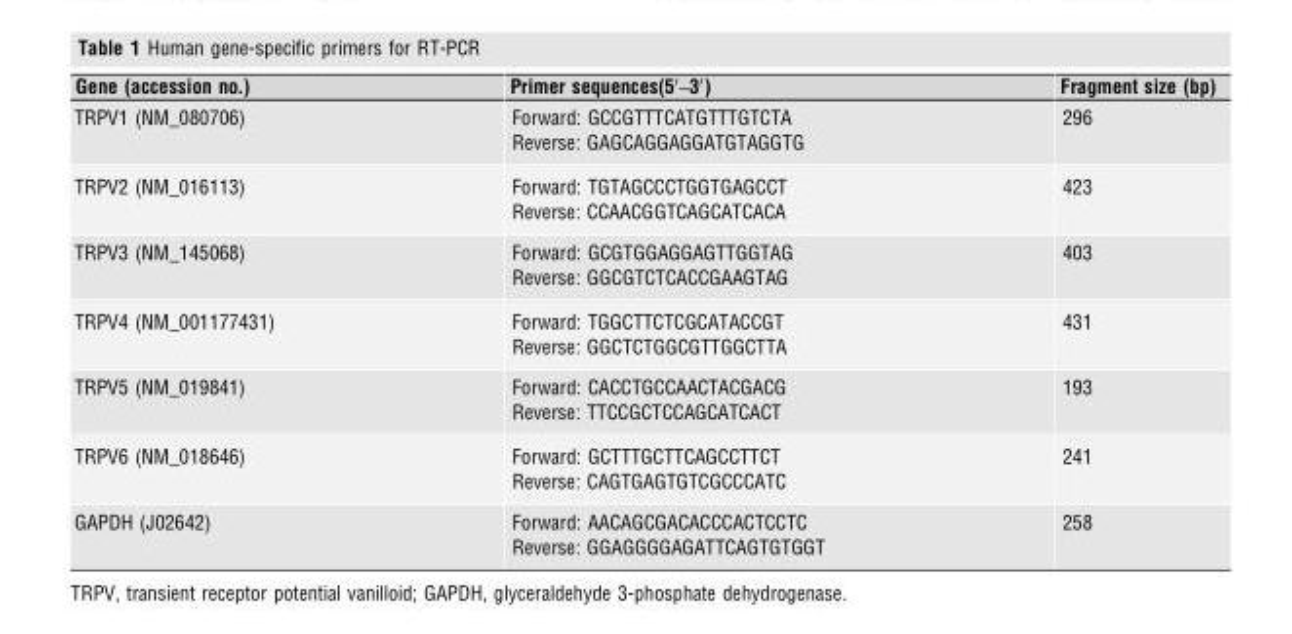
<table><thead><tr><td>Gene (accession no.)</td><td>Primer sequences(5′–3′)</td><td>Fragment size (bp)</td></tr></thead><tbody><tr><td>TRPV1 (NM_080706)</td><td>Forward: GCCGTTTCATGTTTGTCTA Reverse: GAGCAGGAGGATGTAGGTG</td><td>296</td></tr><tr><td>TRPV2 (NM_016113)</td><td>Forward: TGTAGCCCTGGTGAGCCT Reverse: CCAACGGTCAGCATCACA</td><td>423</td></tr><tr><td>TRPV3 (NM_145068)</td><td>Forward: GCGTGGAGGAGTTGGTAG Reverse: GGCGTCTCACCGAAGTAG</td><td>403</td></tr><tr><td>TRPV4 (NM_001177431)</td><td>Forward: TGGCTTCTCGCATACCGT Reverse: GGCTCTGGCGTTGGCTTA</td><td>431</td></tr><tr><td>TRPV5 (NM_019841)</td><td>Forward: CACCTGCCAACTACGACG Reverse: TTCCGCTCCAGCATCACT</td><td>193</td></tr><tr><td>TRPV6 (NM_018646)</td><td>Forward: GCTTTGCTTCAGCCTTCT Reverse: CAGTGAGTGTCGCCCATC</td><td>241</td></tr><tr><td>GAPDH (J02642)</td><td>Forward: AACAGCGACACCCACTCCTC Reverse: GGAGGGGAGATTCAGTGTGGT</td><td>258</td></tr></tbody></table>